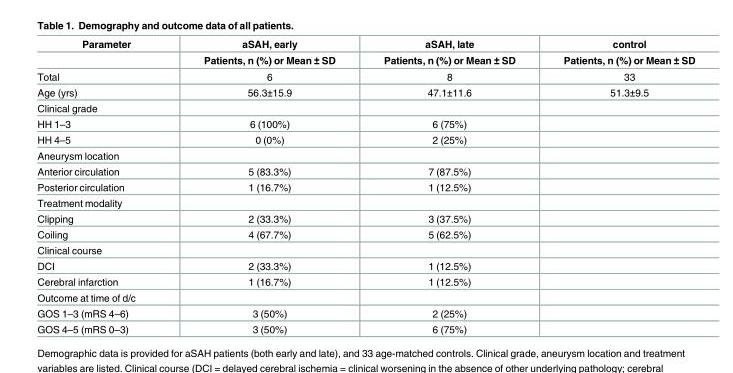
<table><thead><tr><td rowspan="2">Parameter</td><td rowspan="2">aSAH, early Patients, n (%) or Mean ± SD</td><td rowspan="2">aSAH, late Patients, n (%) or Mean ± SD</td><td rowspan="2">control Patients, n (%) or Mean ± SD</td></tr><tr></tr></thead><tbody><tr><td>Total</td><td>6</td><td>8</td><td>33</td></tr><tr><td>Age (yrs)</td><td>56.3±15.9</td><td>47.1±11.6</td><td>51.3±9.5</td></tr><tr><td colspan="4">Clinical grade</td></tr><tr><td>HH 1–3</td><td>6 (100%)</td><td>6 (75%)</td><td></td></tr><tr><td>HH 4–5</td><td>0 (0%)</td><td>2 (25%)</td><td></td></tr><tr><td colspan="4">Aneurysm location</td></tr><tr><td>Anterior circulation</td><td>5 (83.3%)</td><td>7 (87.5%)</td><td></td></tr><tr><td>Posterior circulation</td><td>1 (16.7%)</td><td>1 (12.5%)</td><td></td></tr><tr><td colspan="4">Treatment modality</td></tr><tr><td>Clipping</td><td>2 (33.3%)</td><td>3 (37.5%)</td><td></td></tr><tr><td>Coiling</td><td>4 (67.7%)</td><td>5 (62.5%)</td><td></td></tr><tr><td colspan="4">Clinical course</td></tr><tr><td>DCI</td><td>2 (33.3%)</td><td>1 (12.5%)</td><td></td></tr><tr><td>Cerebral infarction</td><td>1 (16.7%)</td><td>1 (12.5%)</td><td></td></tr><tr><td colspan="4">Outcome at time of d/c</td></tr><tr><td>GOS 1–3 (mRS 4–6)</td><td>3 (50%)</td><td>2 (25%)</td><td></td></tr><tr><td>GOS 4–5 (mRS 0–3)</td><td>3 (50%)</td><td>6 (75%)</td><td></td></tr></tbody></table>